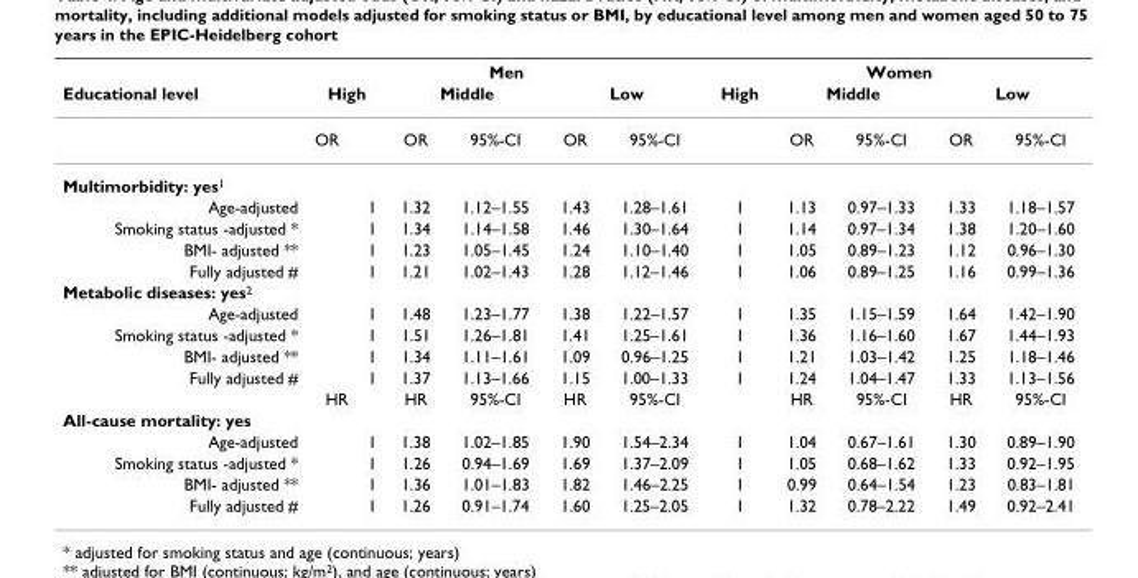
<table><thead><tr><td rowspan="3">Educational level</td><td colspan="6">Men</td><td colspan="5">Women</td></tr><tr><td colspan="2">High</td><td colspan="2">Middle</td><td colspan="2">Low</td><td rowspan="2">High</td><td colspan="2">Middle</td><td colspan="2">Low</td></tr><tr><td>OR</td><td></td><td>OR</td><td>95%-CI</td><td>OR</td><td>95%-CI</td><td>OR</td><td>95%-CI</td><td>OR</td><td>95%-CI</td></tr></thead><tbody><tr><td colspan="12">Multimorbidity: yes<sup>1</sup></td></tr><tr><td>Age-adjusted</td><td></td><td>1</td><td>1.32</td><td>1.12–1.55</td><td>1.43</td><td>1.28–1.61</td><td>1</td><td>1.13</td><td>0.97–1.33</td><td>1.33</td><td>1.18–1.57</td></tr><tr><td>Smoking status -adjusted *</td><td></td><td>1</td><td>1.34</td><td>1.14–1.58</td><td>1.46</td><td>1.30–1.64</td><td>1</td><td>1.14</td><td>0.97–1.34</td><td>1.38</td><td>1.20–1.60</td></tr><tr><td>BMI- adjusted **</td><td></td><td>1</td><td>1.23</td><td>1.05–1.45</td><td>1.24</td><td>1.10–1.40</td><td>1</td><td>1.05</td><td>0.89–1.23</td><td>1.12</td><td>0.96–1.30</td></tr><tr><td>Fully adjusted #</td><td></td><td>1</td><td>1.21</td><td>1.02–1.43</td><td>1.28</td><td>1.12–1.46</td><td>1</td><td>1.06</td><td>0.89–1.25</td><td>1.16</td><td>0.99–1.36</td></tr><tr><td colspan="12">Metabolic diseases: yes<sup>2</sup></td></tr><tr><td>Age-adjusted</td><td></td><td>1</td><td>1.48</td><td>1.23–1.77</td><td>1.38</td><td>1.22–1.57</td><td>1</td><td>1.35</td><td>1.15–1.59</td><td>1.64</td><td>1.42–1.90</td></tr><tr><td>Smoking status -adjusted *</td><td></td><td>1</td><td>1.51</td><td>1.26–1.81</td><td>1.41</td><td>1.25–1.61</td><td>1</td><td>1.36</td><td>1.16–1.60</td><td>1.67</td><td>1.44–1.93</td></tr><tr><td>BMI- adjusted **</td><td></td><td>1</td><td>1.34</td><td>1.11–1.61</td><td>1.09</td><td>0.96–1.25</td><td>1</td><td>1.21</td><td>1.03–1.42</td><td>1.25</td><td>1.18–1.46</td></tr><tr><td rowspan="2">Fully adjusted #</td><td></td><td>1</td><td>1.37</td><td>1.13–1.66</td><td>1.15</td><td>1.00–1.33</td><td>1</td><td>1.24</td><td>1.04–1.47</td><td>1.33</td><td>1.13–1.56</td></tr><tr><td>HR</td><td></td><td>HR</td><td>95%-CI</td><td>HR</td><td>95%-CI</td><td></td><td>HR</td><td>95%-CI</td><td>HR</td><td>95%-CI</td></tr><tr><td colspan="12">All-cause mortality: yes</td></tr><tr><td>Age-adjusted</td><td></td><td>1</td><td>1.38</td><td>1.02–1.85</td><td>1.90</td><td>1.54–2.34</td><td>1</td><td>1.04</td><td>0.67–1.61</td><td>1.30</td><td>0.89–1.90</td></tr><tr><td>Smoking status -adjusted *</td><td></td><td>1</td><td>1.26</td><td>0.94–1.69</td><td>1.69</td><td>1.37–2.09</td><td>1</td><td>1.05</td><td>0.68–1.62</td><td>1.33</td><td>0.92–1.95</td></tr><tr><td>BMI- adjusted **</td><td></td><td>1</td><td>1.36</td><td>1.01–1.83</td><td>1.82</td><td>1.46–2.25</td><td>1</td><td>0.99</td><td>0.64–1.54</td><td>1.23</td><td>0.83–1.81</td></tr><tr><td>Fully adjusted #</td><td></td><td>1</td><td>1.26</td><td>0.91–1.74</td><td>1.60</td><td>1.25–2.05</td><td>1</td><td>1.32</td><td>0.78–2.22</td><td>1.49</td><td>0.92–2.41</td></tr></tbody></table>